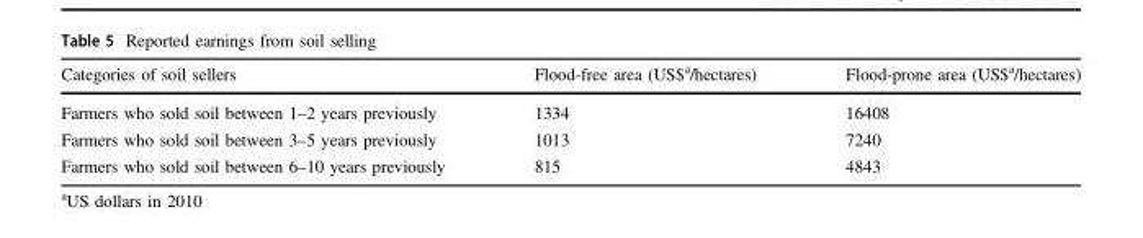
<table><thead><tr><td>Categories of soil sellers</td><td>Flood-free area (US$<sup>a</sup>/hectares)</td><td>Flood-prone area (US$<sup>a</sup>/hectares)</td></tr></thead><tbody><tr><td>Farmers who sold soil between 1–2 years previously</td><td>1334</td><td>16408</td></tr><tr><td>Farmers who sold soil between 3–5 years previously</td><td>1013</td><td>7240</td></tr><tr><td>Farmers who sold soil between 6–10 years previously</td><td>815</td><td>4843</td></tr></tbody></table>